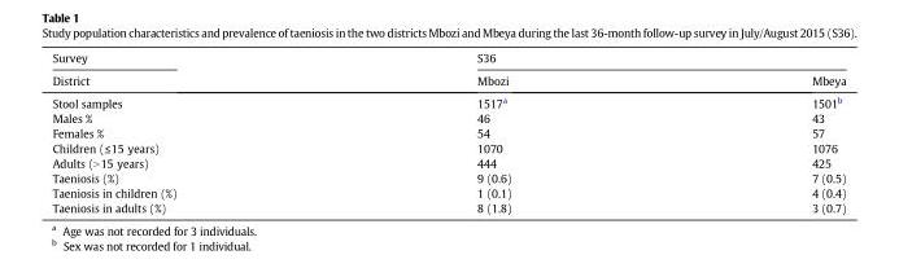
<table><thead><tr><td rowspan="2">Survey District</td><td colspan="2">S36</td></tr><tr><td>Mbozi</td><td>Mbeya</td></tr></thead><tbody><tr><td>Stool samples</td><td>1517<sup>a</sup></td><td>1501<sup>b</sup></td></tr><tr><td>Males %</td><td>46</td><td>43</td></tr><tr><td>Females %</td><td>54</td><td>57</td></tr><tr><td>Children (≤15 years)</td><td>1070</td><td>1076</td></tr><tr><td>Adults (&gt;15 years)</td><td>444</td><td>425</td></tr><tr><td>Taeniosis (%)</td><td>9 (0.6)</td><td>7 (0.5)</td></tr><tr><td>Taeniosis in children (%)</td><td>1 (0.1)</td><td>4 (0.4)</td></tr><tr><td>Taeniosis in adults (%)</td><td>8 (1.8)</td><td>3 (0.7)</td></tr></tbody></table>